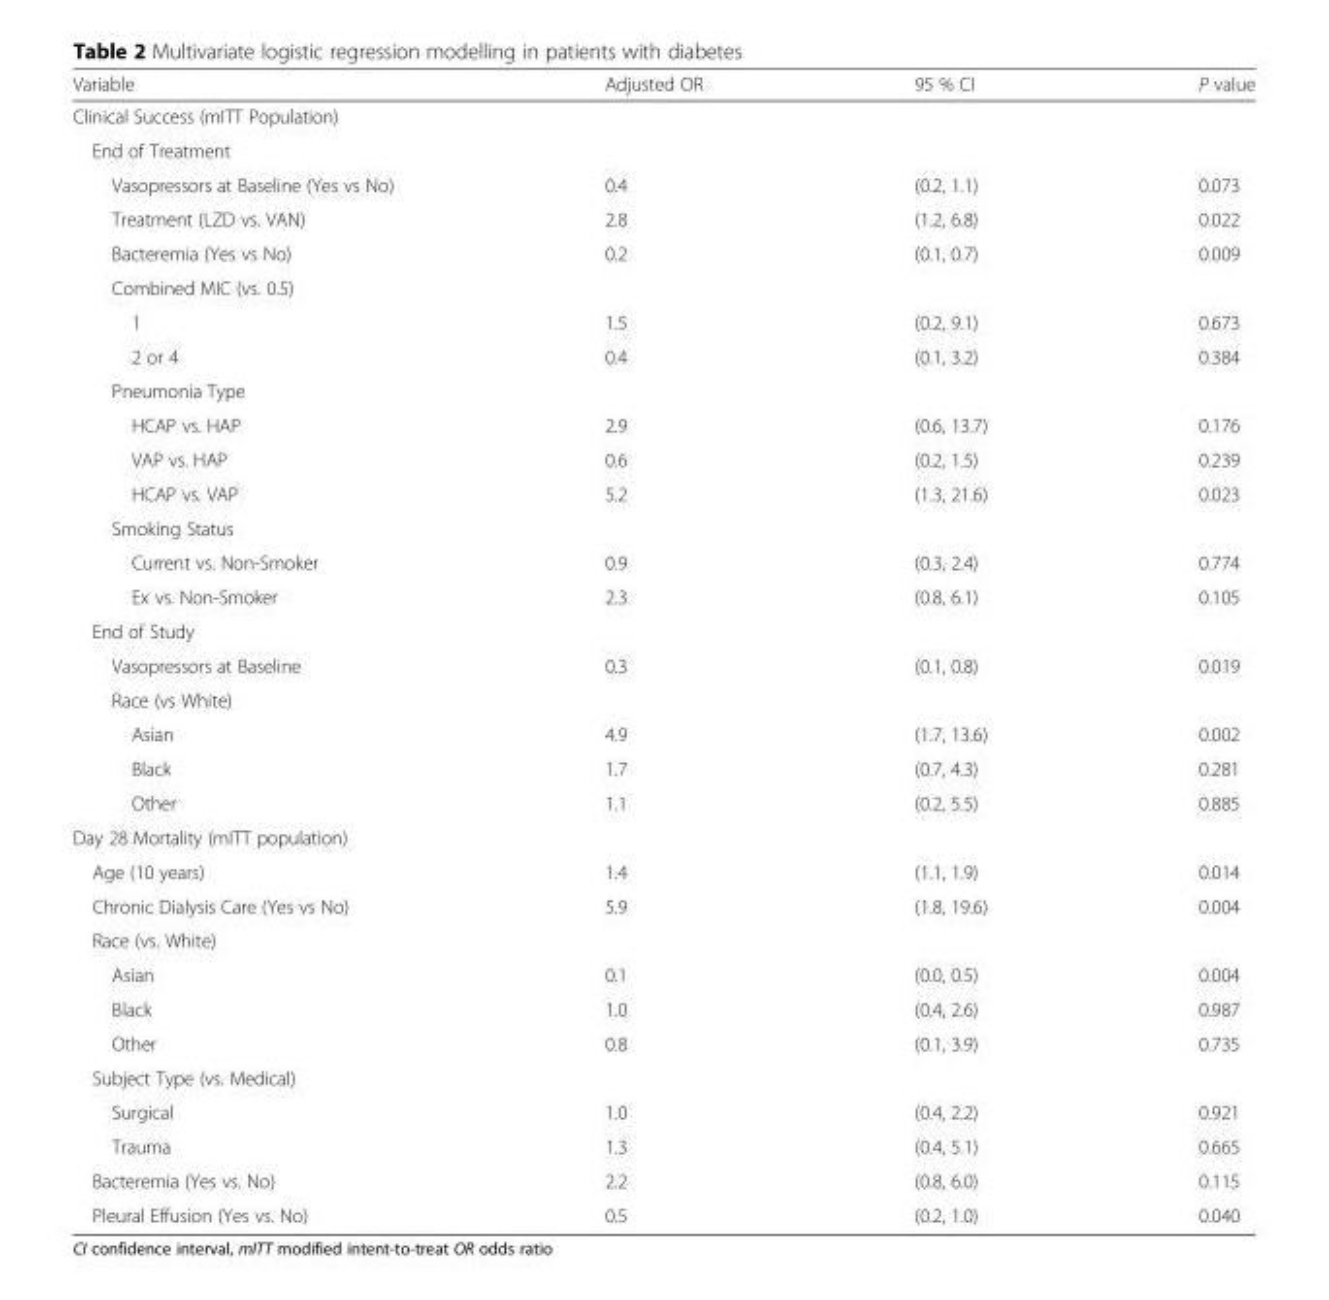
<table><thead><tr><td>Variable</td><td>Adjusted OR</td><td>95 % CI</td><td>P value</td></tr></thead><tbody><tr><td colspan="4">Clinical Success (mITT Population)</td></tr><tr><td colspan="4">End of Treatment</td></tr><tr><td>Vasopressors at Baseline (Yes vs No)</td><td>0.4</td><td>(0.2, 1.1)</td><td>0.073</td></tr><tr><td>Treatment (LZD vs. VAN)</td><td>2.8</td><td>(1.2, 6.8)</td><td>0.022</td></tr><tr><td>Bacteremia (Yes vs No)</td><td>0.2</td><td>(0.1, 0.7)</td><td>0.009</td></tr><tr><td colspan="4">Combined MIC (vs. 0.5)</td></tr><tr><td>1</td><td>1.5</td><td>(0.2, 9.1)</td><td>0.673</td></tr><tr><td>2 or 4</td><td>0.4</td><td>(0.1, 3.2)</td><td>0.384</td></tr><tr><td colspan="4">Pneumonia Type</td></tr><tr><td>HCAP vs. HAP</td><td>2.9</td><td>(0.6, 13.7)</td><td>0.176</td></tr><tr><td>VAP vs. HAP</td><td>0.6</td><td>(0.2, 1.5)</td><td>0.239</td></tr><tr><td>HCAP vs. VAP</td><td>5.2</td><td>(1.3, 21.6)</td><td>0.023</td></tr><tr><td colspan="4">Smoking Status</td></tr><tr><td>Current vs. Non-Smoker</td><td>0.9</td><td>(0.3, 2.4)</td><td>0.774</td></tr><tr><td>Ex vs. Non-Smoker</td><td>2.3</td><td>(0.8, 6.1)</td><td>0.105</td></tr><tr><td colspan="4">End of Study</td></tr><tr><td>Vasopressors at Baseline</td><td>0.3</td><td>(0.1, 0.8)</td><td>0.019</td></tr><tr><td colspan="4">Race (vs White)</td></tr><tr><td>Asian</td><td>4.9</td><td>(1.7, 13.6)</td><td>0.002</td></tr><tr><td>Black</td><td>1.7</td><td>(0.7, 4.3)</td><td>0.281</td></tr><tr><td>Other</td><td>1.1</td><td>(0.2, 5.5)</td><td>0.885</td></tr><tr><td colspan="4">Day 28 Mortality (mITT population)</td></tr><tr><td>Age (10 years)</td><td>1.4</td><td>(1.1, 1.9)</td><td>0.014</td></tr><tr><td>Chronic Dialysis Care (Yes vs No)</td><td>5.9</td><td>(1.8, 19.6)</td><td>0.004</td></tr><tr><td colspan="4">Race (vs. White)</td></tr><tr><td>Asian</td><td>0.1</td><td>(0.0, 0.5)</td><td>0.004</td></tr><tr><td>Black</td><td>1.0</td><td>(0.4, 2.6)</td><td>0.987</td></tr><tr><td>Other</td><td>0.8</td><td>(0.1, 3.9)</td><td>0.735</td></tr><tr><td colspan="4">Subject Type (vs. Medical)</td></tr><tr><td>Surgical</td><td>1.0</td><td>(0.4, 2.2)</td><td>0.921</td></tr><tr><td>Trauma</td><td>1.3</td><td>(0.4, 5.1)</td><td>0.665</td></tr><tr><td>Bacteremia (Yes vs. No)</td><td>2.2</td><td>(0.8, 6.0)</td><td>0.115</td></tr><tr><td>Pleural Effusion (Yes vs. No)</td><td>0.5</td><td>(0.2, 1.0)</td><td>0.040</td></tr></tbody></table>